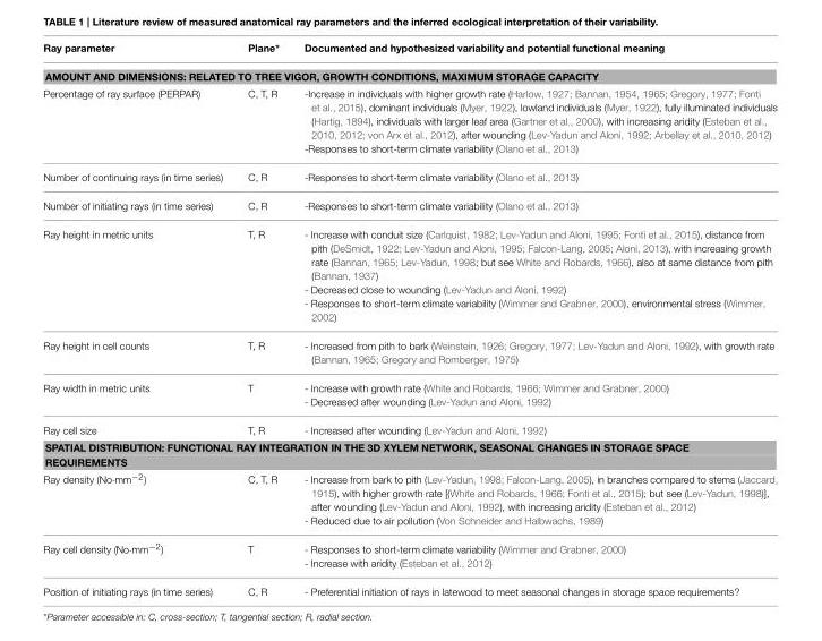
<table><thead><tr><td>Ray parameter</td><td>Plane*</td><td>Documented and hypothesized variability and potential functional meaning</td></tr></thead><tbody><tr><td colspan="3">AMOUNT AND DIMENSIONS: RELATED TO TREE VIGOR, GROWTH CONDITIONS, MAXIMUM STORAGE CAPACITY</td></tr><tr><td>Percentage of ray surface (PERPAR)</td><td>C, T, R</td><td>-Increase in individuals with higher growth rate (Harlow, 1927; Bannan, 1954, 1965; Gregory, 1977; Fonti et al., 2015), dominant individuals (Myer, 1922), lowland individuals (Myer, 1922), fully illuminated individuals (Hartig, 1894), individuals with larger leaf area (Gartner et al., 2000), with increasing aridity (Esteban et al., 2010, 2012; von Arx et al., 2012), after wounding (Lev-Yadun and Aloni, 1992; Arbellay et al., 2010, 2012) -Responses to short-term climate variability (Olano et al., 2013)</td></tr><tr><td>Number of continuing rays (in time series)</td><td>C, R</td><td>-Responses to short-term climate variability (Olano et al., 2013)</td></tr><tr><td>Number of initiating rays (in time series)</td><td>C, R</td><td>-Responses to short-term climate variability (Olano et al., 2013)</td></tr><tr><td>Ray height in metric units</td><td>T, R</td><td>- Increase with conduit size (Carlquist, 1982; Lev-Yadun and Aloni, 1995; Fonti et al., 2015), distance from pith (DeSmidt, 1922; Lev-Yadun and Aloni, 1995; Falcon-Lang, 2005; Aloni, 2013), with increasing growth rate (Bannan, 1965; Lev-Yadun, 1998; but see White and Robards, 1966), also at same distance from pith (Bannan, 1937) - Decreased close to wounding (Lev-Yadun and Aloni, 1992) - Responses to short-term climate variability (Wimmer and Grabner, 2000), environmental stress (Wimmer, 2002)</td></tr><tr><td>Ray height in cell counts</td><td>T, R</td><td>- Increased from pith to bark (Weinstein, 1926; Gregory, 1977; Lev-Yadun and Aloni, 1992), with growth rate (Bannan, 1965; Gregory and Romberger, 1975)</td></tr><tr><td>Ray width in metric units</td><td>T</td><td>- Increase with growth rate (White and Robards, 1966; Wimmer and Grabner, 2000) - Decreased after wounding (Lev-Yadun and Aloni, 1992)</td></tr><tr><td>Ray cell size</td><td>T, R</td><td>- Increased after wounding (Lev-Yadun and Aloni, 1992)</td></tr><tr><td colspan="3">SPATIAL DISTRIBUTION: FUNCTIONAL RAY INTEGRATION IN THE 3D XYLEM NETWORK, SEASONAL CHANGES IN STORAGE SPACE REQUIREMENTS</td></tr><tr><td>Ray density (No·mm<sup>−2</sup>)</td><td>C, T, R</td><td>- Increase from bark to pith (Lev-Yadun, 1998; Falcon-Lang, 2005), in branches compared to stems (Jaccard, 1915), with higher growth rate [(White and Robards, 1966; Fonti et al., 2015); but see (Lev-Yadun, 1998)], after wounding (Lev-Yadun and Aloni, 1992), with increasing aridity (Esteban et al., 2012) - Reduced due to air pollution (Von Schneider and Halbwachs, 1989)</td></tr><tr><td>Ray cell density (No·mm<sup>−2</sup>)</td><td>T</td><td>- Responses to short-term climate variability (Wimmer and Grabner, 2000) - Increase with aridity (Esteban et al., 2012)</td></tr><tr><td>Position of initiating rays (in time series)</td><td>C, R</td><td>- Preferential initiation of rays in latewood to meet seasonal changes in storage space requirements?</td></tr></tbody></table>